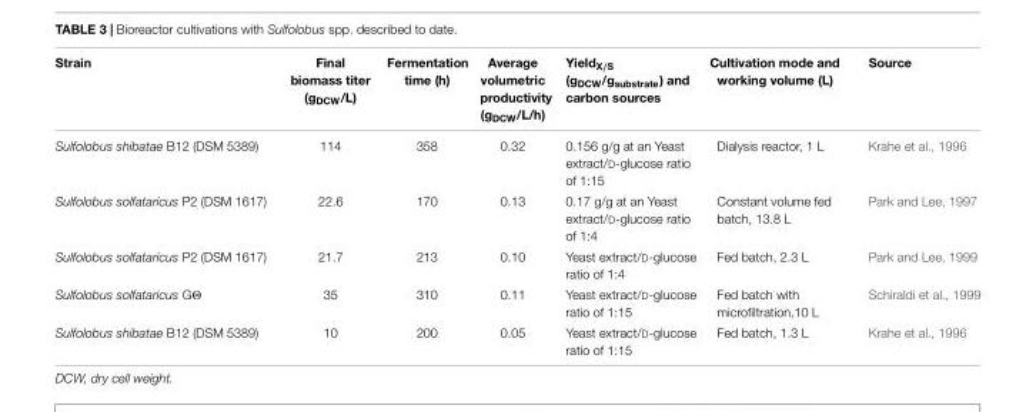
<table><thead><tr><td>Strain</td><td>Final biomass titer (g<sub>DCW</sub>/L)</td><td>Fermentation time (h)</td><td>Average volumetric productivity (g<sub>DCW</sub>/L/h)</td><td>Yield<sub>X/S</sub> (g<sub>DCW</sub>/g<sub>substrate</sub>) and carbon sources</td><td>Cultivation mode and working volume (L)</td><td>Source</td></tr></thead><tbody><tr><td>Sulfolobus shibatae B12 (DSM 5389)</td><td>114</td><td>358</td><td>0.32</td><td>0.156 g/g at an Yeast extract/D-glucose ratio of 1:15</td><td>Dialysis reactor, 1 L</td><td>Krahe et al., 1996</td></tr><tr><td>Sulfolobus solfataricus P2 (DSM 1617)</td><td>22.6</td><td>170</td><td>0.13</td><td>0.17 g/g at an Yeast extract/D-glucose ratio of 1:4</td><td>Constant volume fed batch, 13.8 L</td><td>Park and Lee, 1997</td></tr><tr><td>Sulfolobus solfataricus P2 (DSM 1617)</td><td>21.7</td><td>213</td><td>0.10</td><td>Yeast extract/D-glucose ratio of 1:4</td><td>Fed batch, 2.3 L</td><td>Park and Lee, 1999</td></tr><tr><td>Sulfolobus solfataricus GΘ</td><td>35</td><td>310</td><td>0.11</td><td>Yeast extract/D-glucose ratio of 1:15</td><td>Fed batch with microfiltration,10 L</td><td>Schiraldi et al., 1999</td></tr><tr><td>Sulfolobus shibatae B12 (DSM 5389)</td><td>10</td><td>200</td><td>0.05</td><td>Yeast extract/D-glucose ratio of 1:15</td><td>Fed batch, 1.3 L</td><td>Krahe et al., 1996</td></tr></tbody></table>